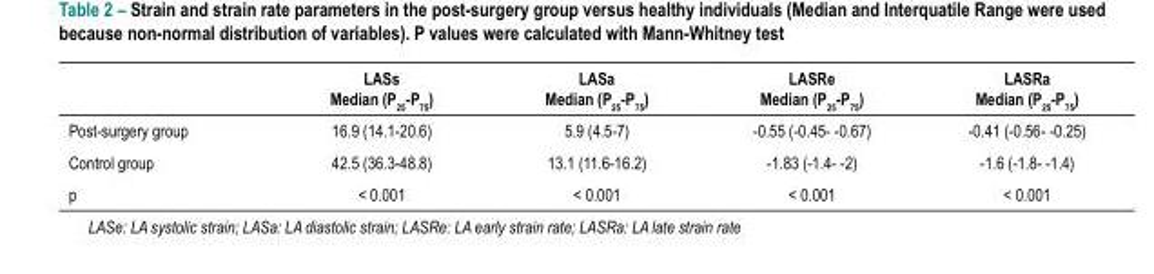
<table><thead><tr><td></td><td>LASs Median (P<sub>25</sub>-P<sub>75</sub>)</td><td>LASa Median (P<sub>25</sub>-P<sub>75</sub>)</td><td>LASRe Median (P<sub>25</sub>-P<sub>75</sub>)</td><td>LASRa Median (P<sub>25</sub>-P<sub>75</sub>)</td></tr></thead><tbody><tr><td>Post-surgery group</td><td>16.9 (14.1-20.6)</td><td>5.9 (4.5-7)</td><td>-0.55 (-0.45- -0.67)</td><td>-0.41 (-0.56- -0.25)</td></tr><tr><td>Control group</td><td>42.5 (36.3-48.8)</td><td>13.1 (11.6-16.2)</td><td>-1.83 (-1.4- -2)</td><td>-1.6 (-1.8- -1.4)</td></tr><tr><td>p</td><td>&lt; 0.001</td><td>&lt; 0.001</td><td>&lt; 0.001</td><td>&lt; 0.001</td></tr></tbody></table>